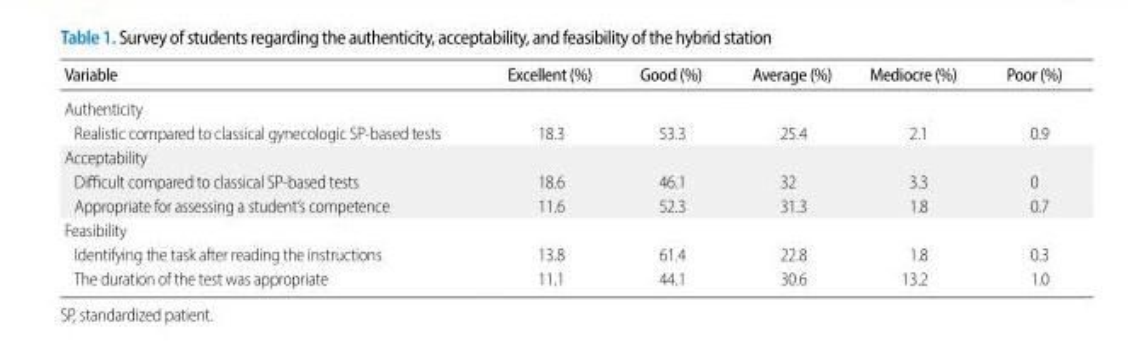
<table><thead><tr><td>Variable</td><td>Excellent (%)</td><td>Good (%)</td><td>Average (%)</td><td>Mediocre (%)</td><td>Poor (%)</td></tr></thead><tbody><tr><td colspan="6">Authenticity</td></tr><tr><td>Realistic compared to classical gynecologic SP-based tests</td><td>18.3</td><td>53.3</td><td>25.4</td><td>2.1</td><td>0.9</td></tr><tr><td colspan="6">Acceptability</td></tr><tr><td>Difficult compared to classical SP-based tests</td><td>18.6</td><td>46.1</td><td>32</td><td>3.3</td><td>0</td></tr><tr><td>Appropriate for assessing a student’s competence</td><td>11.6</td><td>52.3</td><td>31.3</td><td>1.8</td><td>0.7</td></tr><tr><td colspan="6">Feasibility</td></tr><tr><td>Identifying the task after reading the instructions</td><td>13.8</td><td>61.4</td><td>22.8</td><td>1.8</td><td>0.3</td></tr><tr><td>The duration of the test was appropriate</td><td>11.1</td><td>44.1</td><td>30.6</td><td>13.2</td><td>1.0</td></tr></tbody></table>